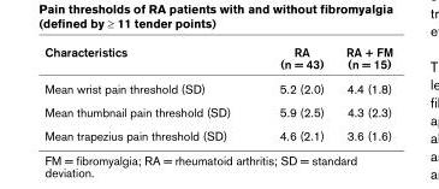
<table><thead><tr><td>Characteristics</td><td>RA (n = 43)</td><td>RA + FM (n = 15)</td></tr></thead><tbody><tr><td>Mean wrist pain threshold (SD)</td><td>5.2 (2.0)</td><td>4.4 (1.8)</td></tr><tr><td>Mean thumbnail pain threshold (SD)</td><td>5.9 (2.5)</td><td>4.3 (2.3)</td></tr><tr><td>Mean trapezius pain threshold (SD)</td><td>4.6 (2.1)</td><td>3.6 (1.6)</td></tr></tbody></table>